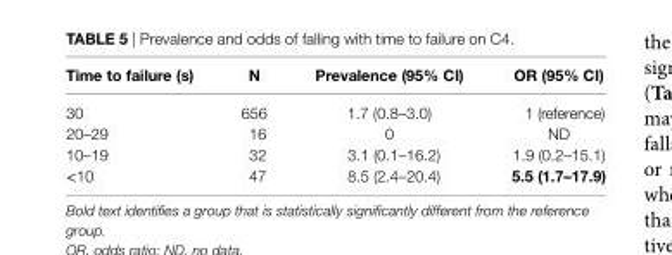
<table><thead><tr><td>Time to failure (s)</td><td>n</td><td>Prevalence (95% ci)</td><td>Or (95% ci)</td></tr></thead><tbody><tr><td>30</td><td>656</td><td>1.7 (0.8–3.0)</td><td>1 (reference)</td></tr><tr><td>20–29</td><td>16</td><td>0</td><td>ND</td></tr><tr><td>10–19</td><td>32</td><td>3.1 (0.1–16.2)</td><td>1.9 (0.2–15.1)</td></tr><tr><td>&lt;10</td><td>47</td><td>8.5 (2.4–20.4)</td><td>5.5 (1.7–17.9)</td></tr></tbody></table>